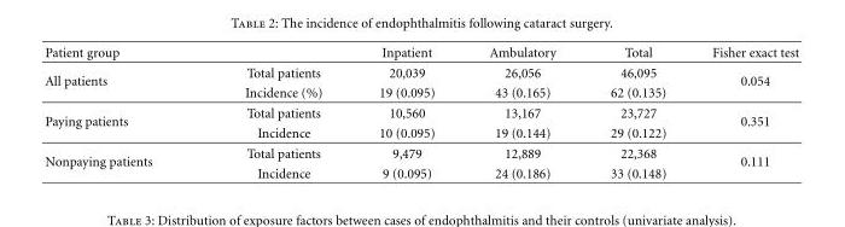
<table><thead><tr><td>Patient group</td><td></td><td>Inpatient</td><td>Ambulatory</td><td>Total</td><td>Fisher exact test</td></tr></thead><tbody><tr><td rowspan="2">All patients</td><td>Total patients</td><td>20,039</td><td>26,056</td><td>46,095</td><td rowspan="2">0.054</td></tr><tr><td>Incidence (%)</td><td>19 (0.095)</td><td>43 (0.165)</td><td>62 (0.135)</td></tr><tr><td rowspan="2">Paying patients</td><td>Total patients</td><td>10,560</td><td>13,167</td><td>23,727</td><td rowspan="2">0.351</td></tr><tr><td>Incidence</td><td>10 (0.095)</td><td>19 (0.144)</td><td>29 (0.122)</td></tr><tr><td rowspan="2">Nonpaying patients</td><td>Total patients</td><td>9,479</td><td>12,889</td><td>22,368</td><td rowspan="2">0.111</td></tr><tr><td>Incidence</td><td>9 (0.095)</td><td>24 (0.186)</td><td>33 (0.148)</td></tr></tbody></table>